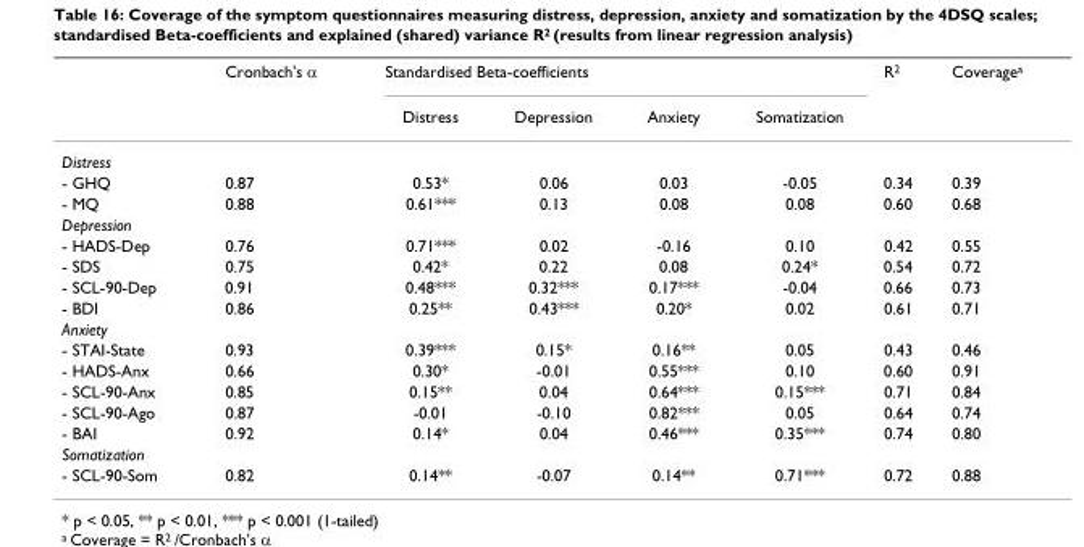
<table><thead><tr><td rowspan="2"></td><td rowspan="2">Cronbach&#x27;s α</td><td colspan="4">Standardised Beta-coefficients</td><td rowspan="2">R<sup>2</sup></td><td rowspan="2">Coverage<sup>a</sup></td></tr><tr><td>Distress</td><td>Depression</td><td>Anxiety</td><td>Somatization</td></tr></thead><tbody><tr><td colspan="8">Distress</td></tr><tr><td>- GHQ</td><td>0.87</td><td>0.53*</td><td>0.06</td><td>0.03</td><td>-0.05</td><td>0.34</td><td>0.39</td></tr><tr><td>- MQ</td><td>0.88</td><td>0.61***</td><td>0.13</td><td>0.08</td><td>0.08</td><td>0.60</td><td>0.68</td></tr><tr><td colspan="8">Depression</td></tr><tr><td>- HADS-Dep</td><td>0.76</td><td>0.71***</td><td>0.02</td><td>-0.16</td><td>0.10</td><td>0.42</td><td>0.55</td></tr><tr><td>- SDS</td><td>0.75</td><td>0.42*</td><td>0.22</td><td>0.08</td><td>0.24*</td><td>0.54</td><td>0.72</td></tr><tr><td>- SCL-90-Dep</td><td>0.91</td><td>0.48***</td><td>0.32***</td><td>0.17***</td><td>-0.04</td><td>0.66</td><td>0.73</td></tr><tr><td>- BDI</td><td>0.86</td><td>0.25**</td><td>0.43***</td><td>0.20*</td><td>0.02</td><td>0.61</td><td>0.71</td></tr><tr><td colspan="8">Anxiety</td></tr><tr><td>- STAI-State</td><td>0.93</td><td>0.39***</td><td>0.15*</td><td>0.16**</td><td>0.05</td><td>0.43</td><td>0.46</td></tr><tr><td>- HADS-Anx</td><td>0.66</td><td>0.30*</td><td>-0.01</td><td>0.55***</td><td>0.10</td><td>0.60</td><td>0.91</td></tr><tr><td>- SCL-90-Anx</td><td>0.85</td><td>0.15**</td><td>0.04</td><td>0.64***</td><td>0.15***</td><td>0.71</td><td>0.84</td></tr><tr><td>- SCL-90-Ago</td><td>0.87</td><td>-0.01</td><td>-0.10</td><td>0.82***</td><td>0.05</td><td>0.64</td><td>0.74</td></tr><tr><td>- BAI</td><td>0.92</td><td>0.14*</td><td>0.04</td><td>0.46***</td><td>0.35***</td><td>0.74</td><td>0.80</td></tr><tr><td colspan="8">Somatization</td></tr><tr><td>- SCL-90-Som</td><td>0.82</td><td>0.14**</td><td>-0.07</td><td>0.14**</td><td>0.71***</td><td>0.72</td><td>0.88</td></tr></tbody></table>